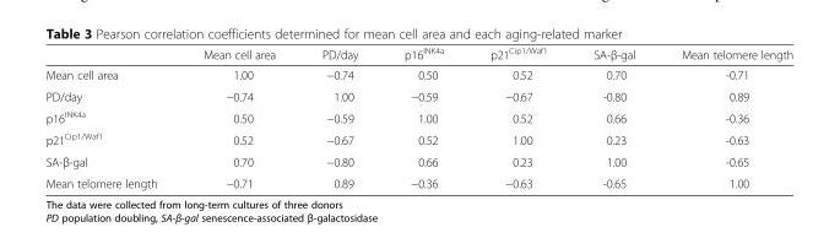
<table><thead><tr><td></td><td>Mean cell area</td><td>PD/day</td><td>p16<sup>INK4a</sup></td><td>p21<sup>Cip1/Waf1</sup></td><td>SA-β-gal</td><td>Mean telomere length</td></tr></thead><tbody><tr><td>Mean cell area</td><td>1.00</td><td>−0.74</td><td>0.50</td><td>0.52</td><td>0.70</td><td>-0.71</td></tr><tr><td>PD/day</td><td>−0.74</td><td>1.00</td><td>−0.59</td><td>−0.67</td><td>-0.80</td><td>0.89</td></tr><tr><td>p16<sup>INK4a</sup></td><td>0.50</td><td>−0.59</td><td>1.00</td><td>0.52</td><td>0.66</td><td>-0.36</td></tr><tr><td>p21<sup>Cip1/Waf1</sup></td><td>0.52</td><td>−0.67</td><td>0.52</td><td>1.00</td><td>0.23</td><td>-0.63</td></tr><tr><td>SA-β-gal</td><td>0.70</td><td>−0.80</td><td>0.66</td><td>0.23</td><td>1.00</td><td>-0.65</td></tr><tr><td>Mean telomere length</td><td>−0.71</td><td>0.89</td><td>−0.36</td><td>−0.63</td><td>-0.65</td><td>1.00</td></tr></tbody></table>